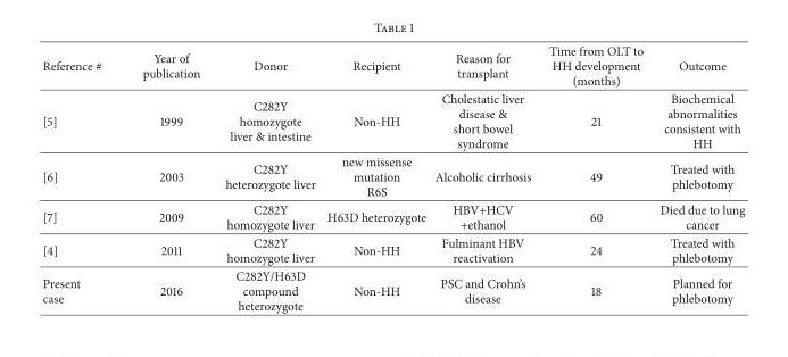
<table><thead><tr><td>Reference #</td><td>Year of publication</td><td>Donor</td><td>Recipient</td><td>Reason for transplant</td><td>Time from OLT to HH development (months)</td><td>Outcome</td></tr></thead><tbody><tr><td>[5]</td><td>1999</td><td>C282Y homozygote liver &amp; intestine</td><td>Non-HH</td><td>Cholestatic liver disease &amp; short bowel syndrome</td><td>21</td><td>Biochemical abnormalities consistent with HH</td></tr><tr><td>[6]</td><td>2003</td><td>C282Y heterozygote liver</td><td>new missense mutation R6S</td><td>Alcoholic cirrhosis</td><td>49</td><td>Treated with phlebotomy</td></tr><tr><td>[7]</td><td>2009</td><td>C282Y homozygote liver</td><td>H63D heterozygote</td><td>HBV+HCV +ethanol</td><td>60</td><td>Died due to lung cancer</td></tr><tr><td>[4]</td><td>2011</td><td>C282Y homozygote liver</td><td>Non-HH</td><td>Fulminant HBV reactivation</td><td>24</td><td>Treated with phlebotomy</td></tr><tr><td>Present case</td><td>2016</td><td>C282Y/H63D compound heterozygote</td><td>Non-HH</td><td>PSC and Crohn’s disease</td><td>18</td><td>Planned for phlebotomy</td></tr></tbody></table>